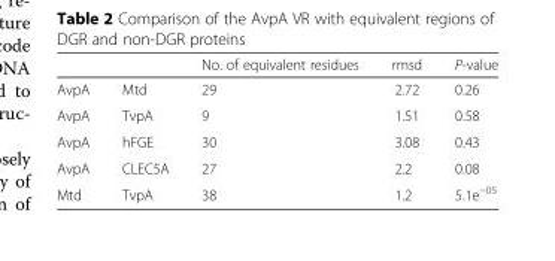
<table><thead><tr><td></td><td></td><td>No. of equivalent residues</td><td>rmsd</td><td>P-value</td></tr></thead><tbody><tr><td>AvpA</td><td>Mtd</td><td>29</td><td>2.72</td><td>0.26</td></tr><tr><td>AvpA</td><td>TvpA</td><td>9</td><td>1.51</td><td>0.58</td></tr><tr><td>AvpA</td><td>hFGE</td><td>30</td><td>3.08</td><td>0.43</td></tr><tr><td>AvpA</td><td>CLEC5A</td><td>27</td><td>2.2</td><td>0.08</td></tr><tr><td>Mtd</td><td>TvpA</td><td>38</td><td>1.2</td><td>5.1e<sup>−05</sup></td></tr></tbody></table>